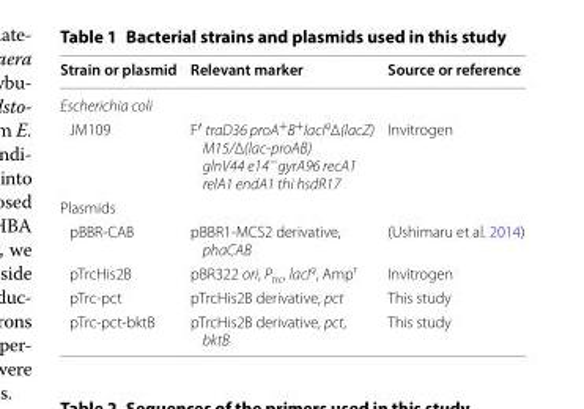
<table><thead><tr><td>Strain or plasmid</td><td>Relevant marker</td><td>Source or reference</td></tr></thead><tbody><tr><td colspan="3">Escherichia coli</td></tr><tr><td>JM109</td><td>F′ traD36 proA<sup>+</sup>B<sup>+</sup>lacI<sup>q</sup>Δ(lacZ) M15/Δ(lac-proAB) glnV44 e14<sup>−</sup>gyrA96 recA1 relA1 endA1 thi hsdR17</td><td>Invitrogen</td></tr><tr><td colspan="3">Plasmids</td></tr><tr><td>pBBR-CAB</td><td>pBBR1-MCS2 derivative, phaCAB</td><td>(Ushimaru et al. 2014)</td></tr><tr><td>pTrcHis2B</td><td>pBR322 ori, P<sub>trc</sub>, lacI<sup>q</sup>, Amp<sup>r</sup></td><td>Invitrogen</td></tr><tr><td>pTrc-pct</td><td>pTrcHis2B derivative, pct</td><td>This study</td></tr><tr><td>pTrc-pct-bktB</td><td>pTrcHis2B derivative, pct, bktB</td><td>This study</td></tr></tbody></table>